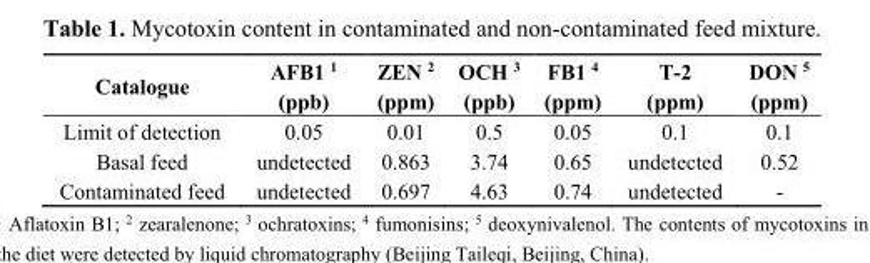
<table><thead><tr><td>Catalogue</td><td>AFB1 <sup>1</sup> (ppb)</td><td>ZEN <sup>2</sup> (ppm)</td><td>OCH <sup>3</sup> (ppb)</td><td>FB1 <sup>4</sup> (ppm)</td><td>T-2 (ppm)</td><td>DON <sup>5</sup> (ppm)</td></tr></thead><tbody><tr><td>Limit of detection</td><td>0.05</td><td>0.01</td><td>0.5</td><td>0.05</td><td>0.1</td><td>0.1</td></tr><tr><td>Basal feed</td><td>undetected</td><td>0.863</td><td>3.74</td><td>0.65</td><td>undetected</td><td>0.52</td></tr><tr><td>Contaminated feed</td><td>undetected</td><td>0.697</td><td>4.63</td><td>0.74</td><td>undetected</td><td>-</td></tr></tbody></table>